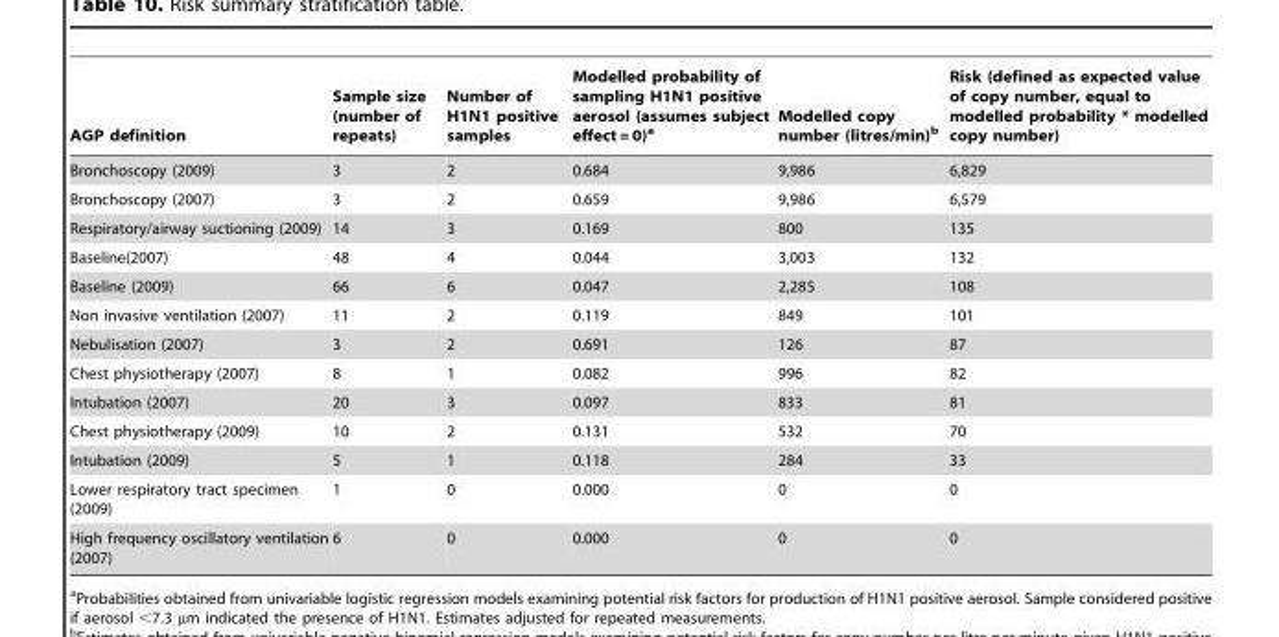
<table><thead><tr><td>AGP definition</td><td>Sample size (number of repeats)</td><td>Number of H1N1 positive samples</td><td>Modelled probability of sampling H1N1 positive aerosol (assumes subject effect = 0)<sup>a</sup></td><td>Modelled copy number (litres/min)<sup>b</sup></td><td>Risk (defined as expected value of copy number, equal to modelled probability * modelled copy number)</td></tr></thead><tbody><tr><td>Bronchoscopy (2009)</td><td>3</td><td>2</td><td>0.684</td><td>9,986</td><td>6,829</td></tr><tr><td>Bronchoscopy (2007)</td><td>3</td><td>2</td><td>0.659</td><td>9,986</td><td>6,579</td></tr><tr><td>Respiratory/airway suctioning (2009)</td><td>14</td><td>3</td><td>0.169</td><td>800</td><td>135</td></tr><tr><td>Baseline(2007)</td><td>48</td><td>4</td><td>0.044</td><td>3,003</td><td>132</td></tr><tr><td>Baseline (2009)</td><td>66</td><td>6</td><td>0.047</td><td>2,285</td><td>108</td></tr><tr><td>Non invasive ventilation (2007)</td><td>11</td><td>2</td><td>0.119</td><td>849</td><td>101</td></tr><tr><td>Nebulisation (2007)</td><td>3</td><td>2</td><td>0.691</td><td>126</td><td>87</td></tr><tr><td>Chest physiotherapy (2007)</td><td>8</td><td>1</td><td>0.082</td><td>996</td><td>82</td></tr><tr><td>Intubation (2007)</td><td>20</td><td>3</td><td>0.097</td><td>833</td><td>81</td></tr><tr><td>Chest physiotherapy (2009)</td><td>10</td><td>2</td><td>0.131</td><td>532</td><td>70</td></tr><tr><td>Intubation (2009)</td><td>5</td><td>1</td><td>0.118</td><td>284</td><td>33</td></tr><tr><td>Lower respiratory tract specimen (2009)</td><td>1</td><td>0</td><td>0.000</td><td>0</td><td>0</td></tr><tr><td>High frequency oscillatory ventilation (2007)</td><td>6</td><td>0</td><td>0.000</td><td>0</td><td>0</td></tr></tbody></table>